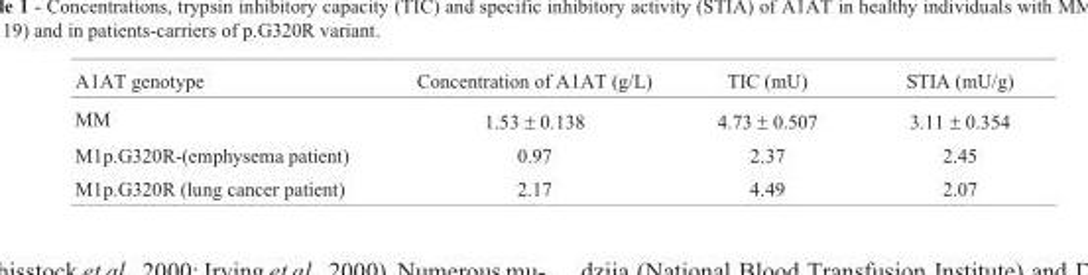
<table><thead><tr><td>A1AT genotype</td><td>Concentration of A1AT (g/L)</td><td>TIC (mU)</td><td>STIA (mU/g)</td></tr></thead><tbody><tr><td>MM</td><td>1.53 ± 0.138</td><td>4.73 ± 0.507</td><td>3.11 ± 0.354</td></tr><tr><td>M1p.G320R-(emphysema patient)</td><td>0.97</td><td>2.37</td><td>2.45</td></tr><tr><td>M1p.G320R (lung cancer patient)</td><td>2.17</td><td>4.49</td><td>2.07</td></tr></tbody></table>